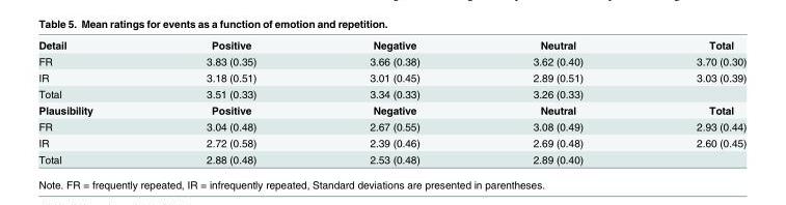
<table><tbody><tr><td>Detail</td><td>Positive</td><td>Negative</td><td>Neutral</td><td>Total</td></tr><tr><td>FR</td><td>3.83 (0.35)</td><td>3.66 (0.38)</td><td>3.62 (0.40)</td><td>3.70 (0.30)</td></tr><tr><td>IR</td><td>3.18 (0.51)</td><td>3.01 (0.45)</td><td>2.89 (0.51)</td><td>3.03 (0.39)</td></tr><tr><td>Total</td><td>3.51 (0.33)</td><td>3.34 (0.33)</td><td>3.26 (0.33)</td><td></td></tr><tr><td>Plausibility</td><td>Positive</td><td>Negative</td><td>Neutral</td><td>Total</td></tr><tr><td>FR</td><td>3.04 (0.48)</td><td>2.67 (0.55)</td><td>3.08 (0.49)</td><td>2.93 (0.44)</td></tr><tr><td>IR</td><td>2.72 (0.58)</td><td>2.39 (0.46)</td><td>2.69 (0.48)</td><td>2.60 (0.45)</td></tr><tr><td>Total</td><td>2.88 (0.48)</td><td>2.53 (0.48)</td><td>2.89 (0.40)</td><td></td></tr></tbody></table>